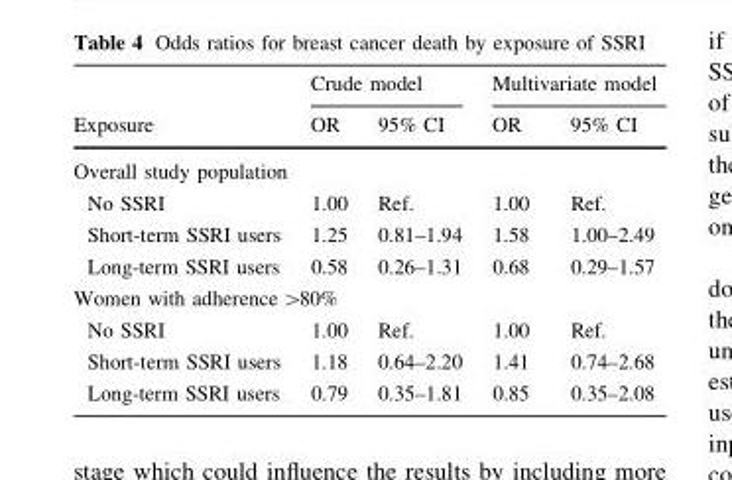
<table><thead><tr><td rowspan="2">Exposure</td><td colspan="2">Crude model</td><td colspan="2">Multivariate model</td></tr><tr><td>OR</td><td>95% CI</td><td>OR</td><td>95% CI</td></tr></thead><tbody><tr><td colspan="5">Overall study population</td></tr><tr><td>No SSRI</td><td>1.00</td><td>Ref.</td><td>1.00</td><td>Ref.</td></tr><tr><td>Short-term SSRI users</td><td>1.25</td><td>0.81–1.94</td><td>1.58</td><td>1.00–2.49</td></tr><tr><td>Long-term SSRI users</td><td>0.58</td><td>0.26–1.31</td><td>0.68</td><td>0.29–1.57</td></tr><tr><td colspan="5">Women with adherence &gt;80%</td></tr><tr><td>No SSRI</td><td>1.00</td><td>Ref.</td><td>1.00</td><td>Ref.</td></tr><tr><td>Short-term SSRI users</td><td>1.18</td><td>0.64–2.20</td><td>1.41</td><td>0.74–2.68</td></tr><tr><td>Long-term SSRI users</td><td>0.79</td><td>0.35–1.81</td><td>0.85</td><td>0.35–2.08</td></tr></tbody></table>